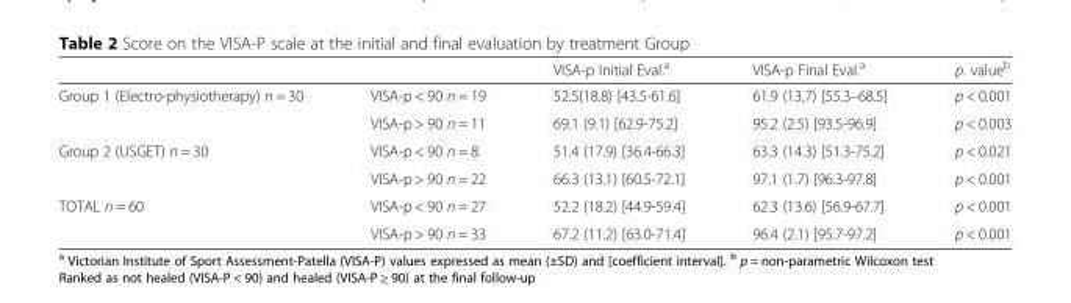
<table><thead><tr><td></td><td></td><td>VISA-p Initial Eval.<sup>a</sup></td><td>VISA-p Final Eval.<sup>a</sup></td><td>p. value<sup>b</sup></td></tr></thead><tbody><tr><td rowspan="2">Group 1 (Electro-physiotherapy) n = 30</td><td>VISA-p &lt; 90 n = 19</td><td>52.5(18.8) [43.5-61.6]</td><td>61.9 (13,7) [55.3–68.5]</td><td>p &lt; 0.001</td></tr><tr><td>VISA-p &gt; 90 n = 11</td><td>69.1 (9.1) [62.9-75.2]</td><td>95.2 (2.5) [93.5-96.9]</td><td>p &lt; 0.003</td></tr><tr><td rowspan="2">Group 2 (USGET) n = 30</td><td>VISA-p &lt; 90 n = 8</td><td>51.4 (17.9) [36.4-66.3]</td><td>63.3 (14.3) [51.3-75.2]</td><td>p &lt; 0.021</td></tr><tr><td>VISA-p &gt; 90 n = 22</td><td>66.3 (13.1) [60.5-72.1]</td><td>97.1 (1.7) [96.3-97.8]</td><td>p &lt; 0.001</td></tr><tr><td rowspan="2">TOTAL n = 60</td><td>VISA-p &lt; 90 n = 27</td><td>52.2 (18.2) [44.9-59.4]</td><td>62.3 (13.6) [56.9-67.7]</td><td>p &lt; 0.001</td></tr><tr><td>VISA-p &gt; 90 n = 33</td><td>67.2 (11.2) [63.0-71.4]</td><td>96.4 (2.1) [95.7-97.2]</td><td>p &lt; 0.001</td></tr></tbody></table>